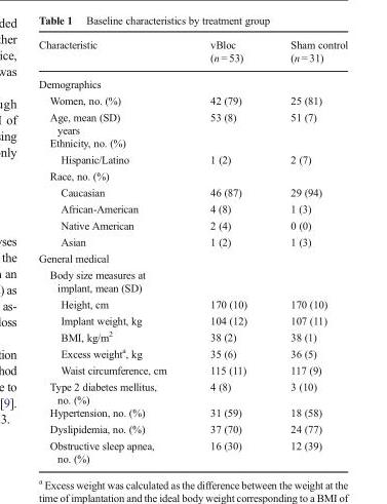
<table><thead><tr><td>Characteristic</td><td>vBloc (n = 53)</td><td>Sham control (n = 31)</td></tr></thead><tbody><tr><td colspan="3">Demographics</td></tr><tr><td>Women, no. (%)</td><td>42 (79)</td><td>25 (81)</td></tr><tr><td>Age, mean (SD) years</td><td>53 (8)</td><td>51 (7)</td></tr><tr><td colspan="3">Ethnicity, no. (%)</td></tr><tr><td>Hispanic/Latino</td><td>1 (2)</td><td>2 (7)</td></tr><tr><td colspan="3">Race, no. (%)</td></tr><tr><td>Caucasian</td><td>46 (87)</td><td>29 (94)</td></tr><tr><td>African-American</td><td>4 (8)</td><td>1 (3)</td></tr><tr><td>Native American</td><td>2 (4)</td><td>0 (0)</td></tr><tr><td>Asian</td><td>1 (2)</td><td>1 (3)</td></tr><tr><td colspan="3">General medical</td></tr><tr><td colspan="3">Body size measures at implant, mean (SD)</td></tr><tr><td>Height, cm</td><td>170 (10)</td><td>170 (10)</td></tr><tr><td>Implant weight, kg</td><td>104 (12)</td><td>107 (11)</td></tr><tr><td>BMI, kg/m<sup>2</sup></td><td>38 (2)</td><td>38 (1)</td></tr><tr><td>Excess weight<sup>a</sup>, kg</td><td>35 (6)</td><td>36 (5)</td></tr><tr><td>Waist circumference, cm</td><td>115 (11)</td><td>117 (9)</td></tr><tr><td>Type 2 diabetes mellitus, no. (%)</td><td>4 (8)</td><td>3 (10)</td></tr><tr><td>Hypertension, no. (%)</td><td>31 (59)</td><td>18 (58)</td></tr><tr><td>Dyslipidemia, no. (%)</td><td>37 (70)</td><td>24 (77)</td></tr><tr><td>Obstructive sleep apnea, no. (%)</td><td>16 (30)</td><td>12 (39)</td></tr></tbody></table>